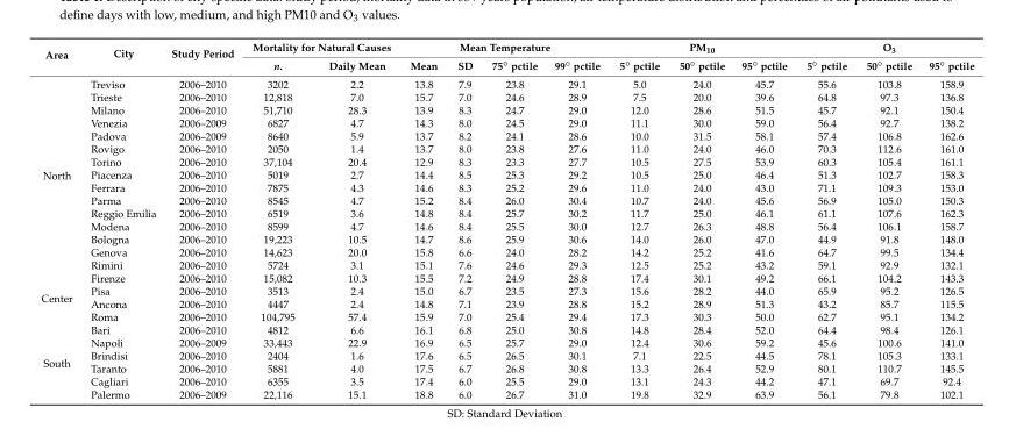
<table><thead><tr><td rowspan="2">Area</td><td rowspan="2">City</td><td rowspan="2">Study Period</td><td colspan="2">Mortality for Natural Causes</td><td colspan="4">Mean Temperature</td><td colspan="3">PM<sub>10</sub></td><td colspan="3">O<sub>3</sub></td></tr><tr><td>n.</td><td>Daily Mean</td><td>Mean</td><td>SD</td><td>75◦ pctile</td><td>99◦ pctile</td><td>5◦ pctile</td><td>50◦ pctile</td><td>95◦ pctile</td><td>5◦ pctile</td><td>50◦ pctile</td><td>95◦ pctile</td></tr></thead><tbody><tr><td rowspan="15">North</td><td>Treviso</td><td>2006–2010</td><td>3202</td><td>2.2</td><td>13.8</td><td>7.9</td><td>23.8</td><td>29.1</td><td>5.0</td><td>24.0</td><td>45.7</td><td>55.6</td><td>103.8</td><td>158.9</td></tr><tr><td>Trieste</td><td>2006–2010</td><td>12,818</td><td>7.0</td><td>15.7</td><td>7.0</td><td>24.6</td><td>28.9</td><td>7.5</td><td>20.0</td><td>39.6</td><td>64.8</td><td>97.3</td><td>136.8</td></tr><tr><td>Milano</td><td>2006–2010</td><td>51,710</td><td>28.3</td><td>13.9</td><td>8.3</td><td>24.7</td><td>29.0</td><td>12.0</td><td>28.6</td><td>51.5</td><td>45.7</td><td>92.1</td><td>150.4</td></tr><tr><td>Venezia</td><td>2006–2009</td><td>6827</td><td>4.7</td><td>14.3</td><td>8.0</td><td>24.5</td><td>29.0</td><td>11.1</td><td>30.0</td><td>59.0</td><td>56.4</td><td>92.7</td><td>138.2</td></tr><tr><td>Padova</td><td>2006–2009</td><td>8640</td><td>5.9</td><td>13.7</td><td>8.2</td><td>24.1</td><td>28.6</td><td>10.0</td><td>31.5</td><td>58.1</td><td>57.4</td><td>106.8</td><td>162.6</td></tr><tr><td>Rovigo</td><td>2006–2010</td><td>2050</td><td>1.4</td><td>13.7</td><td>8.0</td><td>23.8</td><td>27.6</td><td>11.0</td><td>24.0</td><td>46.0</td><td>70.3</td><td>112.6</td><td>161.0</td></tr><tr><td>Torino</td><td>2006–2010</td><td>37,104</td><td>20.4</td><td>12.9</td><td>8.3</td><td>23.3</td><td>27.7</td><td>10.5</td><td>27.5</td><td>53.9</td><td>60.3</td><td>105.4</td><td>161.1</td></tr><tr><td>Piacenza</td><td>2006–2010</td><td>5019</td><td>2.7</td><td>14.4</td><td>8.5</td><td>25.3</td><td>29.2</td><td>10.5</td><td>25.0</td><td>46.4</td><td>51.3</td><td>102.7</td><td>158.3</td></tr><tr><td>Ferrara</td><td>2006–2010</td><td>7875</td><td>4.3</td><td>14.6</td><td>8.3</td><td>25.2</td><td>29.6</td><td>11.0</td><td>24.0</td><td>43.0</td><td>71.1</td><td>109.3</td><td>153.0</td></tr><tr><td>Parma</td><td>2006–2010</td><td>8545</td><td>4.7</td><td>15.2</td><td>8.4</td><td>26.0</td><td>30.4</td><td>10.7</td><td>24.0</td><td>45.6</td><td>56.9</td><td>105.0</td><td>150.3</td></tr><tr><td>Reggio Emilia</td><td>2006–2010</td><td>6519</td><td>3.6</td><td>14.8</td><td>8.4</td><td>25.7</td><td>30.2</td><td>11.7</td><td>25.0</td><td>46.1</td><td>61.1</td><td>107.6</td><td>162.3</td></tr><tr><td>Modena</td><td>2006–2010</td><td>8599</td><td>4.7</td><td>14.6</td><td>8.4</td><td>25.5</td><td>30.0</td><td>12.7</td><td>26.3</td><td>48.8</td><td>56.4</td><td>106.1</td><td>158.7</td></tr><tr><td>Bologna</td><td>2006–2010</td><td>19,223</td><td>10.5</td><td>14.7</td><td>8.6</td><td>25.9</td><td>30.6</td><td>14.0</td><td>26.0</td><td>47.0</td><td>44.9</td><td>91.8</td><td>148.0</td></tr><tr><td>Genova</td><td>2006–2010</td><td>14,623</td><td>20.0</td><td>15.8</td><td>6.6</td><td>24.0</td><td>28.2</td><td>14.2</td><td>25.2</td><td>41.6</td><td>64.7</td><td>99.5</td><td>134.4</td></tr><tr><td>Rimini</td><td>2006–2010</td><td>5724</td><td>3.1</td><td>15.1</td><td>7.6</td><td>24.6</td><td>29.3</td><td>12.5</td><td>25.2</td><td>43.2</td><td>59.1</td><td>92.9</td><td>132.1</td></tr><tr><td rowspan="4">Center</td><td>Firenze</td><td>2006–2010</td><td>15,082</td><td>10.3</td><td>15.5</td><td>7.2</td><td>24.9</td><td>28.8</td><td>17.4</td><td>30.1</td><td>49.2</td><td>66.1</td><td>104.2</td><td>143.3</td></tr><tr><td>Pisa</td><td>2006–2010</td><td>3513</td><td>2.4</td><td>15.0</td><td>6.7</td><td>23.5</td><td>27.3</td><td>15.6</td><td>28.2</td><td>44.0</td><td>65.9</td><td>95.2</td><td>126.5</td></tr><tr><td>Ancona</td><td>2006–2010</td><td>4447</td><td>2.4</td><td>14.8</td><td>7.1</td><td>23.9</td><td>28.8</td><td>15.2</td><td>28.9</td><td>51.3</td><td>43.2</td><td>85.7</td><td>115.5</td></tr><tr><td>Roma</td><td>2006–2010</td><td>104,795</td><td>57.4</td><td>15.9</td><td>7.0</td><td>25.4</td><td>29.4</td><td>17.3</td><td>30.3</td><td>50.0</td><td>62.7</td><td>95.1</td><td>134.2</td></tr><tr><td rowspan="6">South</td><td>Bari</td><td>2006–2010</td><td>4812</td><td>6.6</td><td>16.1</td><td>6.8</td><td>25.0</td><td>30.8</td><td>14.8</td><td>28.4</td><td>52.0</td><td>64.4</td><td>98.4</td><td>126.1</td></tr><tr><td>Napoli</td><td>2006–2009</td><td>33,443</td><td>22.9</td><td>16.9</td><td>6.5</td><td>25.7</td><td>29.0</td><td>12.4</td><td>30.6</td><td>59.2</td><td>45.6</td><td>100.6</td><td>141.0</td></tr><tr><td>Brindisi</td><td>2006–2010</td><td>2404</td><td>1.6</td><td>17.6</td><td>6.5</td><td>26.5</td><td>30.1</td><td>7.1</td><td>22.5</td><td>44.5</td><td>78.1</td><td>105.3</td><td>133.1</td></tr><tr><td>Taranto</td><td>2006–2010</td><td>5881</td><td>4.0</td><td>17.5</td><td>6.7</td><td>26.8</td><td>30.8</td><td>13.3</td><td>26.4</td><td>52.9</td><td>80.1</td><td>110.7</td><td>145.5</td></tr><tr><td>Cagliari</td><td>2006–2010</td><td>6355</td><td>3.5</td><td>17.4</td><td>6.0</td><td>25.5</td><td>29.0</td><td>13.1</td><td>24.3</td><td>44.2</td><td>47.1</td><td>69.7</td><td>92.4</td></tr><tr><td>Palermo</td><td>2006–2009</td><td>22,116</td><td>15.1</td><td>18.8</td><td>6.0</td><td>26.7</td><td>31.0</td><td>19.8</td><td>32.9</td><td>63.9</td><td>56.1</td><td>79.8</td><td>102.1</td></tr></tbody></table>